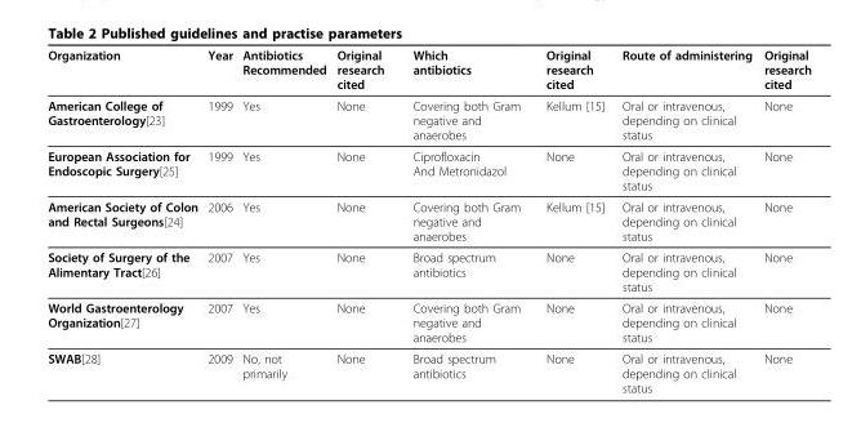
<table><thead><tr><td>Organization</td><td>Year</td><td>Antibiotics Recommended</td><td>Original research cited</td><td>Which antibiotics</td><td>Original research cited</td><td>Route of administering</td><td>Original research cited</td></tr></thead><tbody><tr><td>American College of Gastroenterology[23]</td><td>1999</td><td>Yes</td><td>None</td><td>Covering both Gram negative and anaerobes</td><td>Kellum [15]</td><td>Oral or intravenous, depending on clinical status</td><td>None</td></tr><tr><td>European Association for Endoscopic Surgery[25]</td><td>1999</td><td>Yes</td><td>None</td><td>Ciprofloxacin And Metronidazol</td><td>None</td><td>Oral or intravenous, depending on clinical status</td><td>None</td></tr><tr><td>American Society of Colon and Rectal Surgeons[24]</td><td>2006</td><td>Yes</td><td>None</td><td>Covering both Gram negative and anaerobes</td><td>Kellum [15]</td><td>Oral or intravenous, depending on clinical status</td><td>None</td></tr><tr><td>Society of Surgery of the Alimentary Tract[26]</td><td>2007</td><td>Yes</td><td>None</td><td>Broad spectrum antibiotics</td><td>None</td><td>Oral or intravenous, depending on clinical status</td><td>None</td></tr><tr><td>World Gastroenterology Organization[27]</td><td>2007</td><td>Yes</td><td>None</td><td>Covering both Gram negative and anaerobes</td><td>None</td><td>Oral or intravenous, depending on clinical status</td><td>None</td></tr><tr><td>SWAB[28]</td><td>2009</td><td>No, not primarily</td><td>None</td><td>Broad spectrum antibiotics</td><td>None</td><td>Oral or intravenous, depending on clinical status</td><td>None</td></tr></tbody></table>